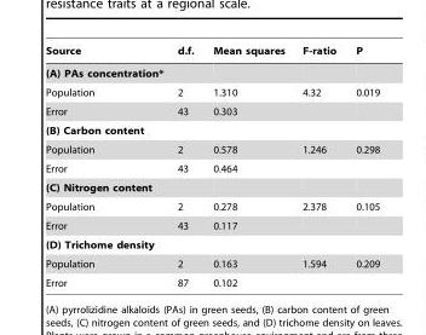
<table><thead><tr><td>Source</td><td>d.f.</td><td>Mean squares</td><td>F-ratio</td><td>P</td></tr></thead><tbody><tr><td colspan="5">(A) PAs concentration*</td></tr><tr><td>Population</td><td>2</td><td>1.310</td><td>4.32</td><td>0.019</td></tr><tr><td>Error</td><td>43</td><td>0.303</td><td></td><td></td></tr><tr><td colspan="5">(B) Carbon content</td></tr><tr><td>Population</td><td>2</td><td>0.578</td><td>1.246</td><td>0.298</td></tr><tr><td>Error</td><td>43</td><td>0.464</td><td></td><td></td></tr><tr><td colspan="5">(C) Nitrogen content</td></tr><tr><td>Population</td><td>2</td><td>0.278</td><td>2.378</td><td>0.105</td></tr><tr><td>Error</td><td>43</td><td>0.117</td><td></td><td></td></tr><tr><td colspan="5">(D) Trichome density</td></tr><tr><td>Population</td><td>2</td><td>0.163</td><td>1.594</td><td>0.209</td></tr><tr><td>Error</td><td>87</td><td>0.102</td><td></td><td></td></tr></tbody></table>